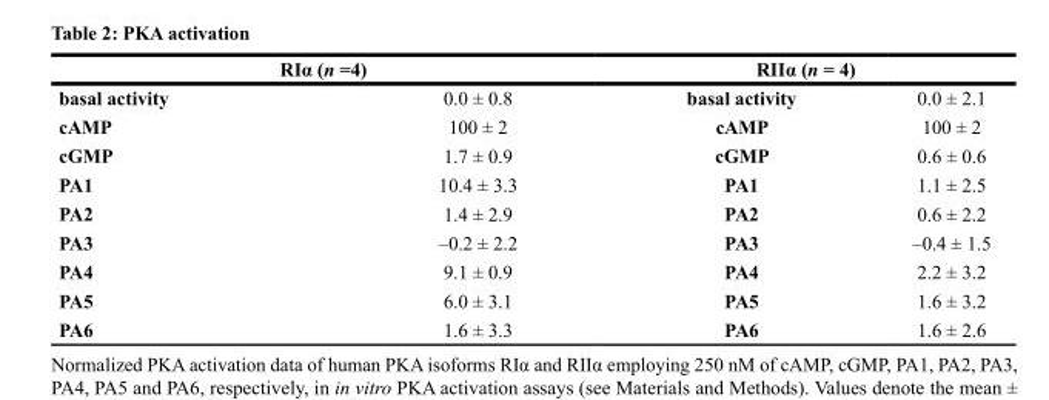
<table><thead><tr><td colspan="2">RIα (n =4)</td><td colspan="2">RIIα (n = 4)</td></tr><tr><td>basal activity</td><td>0.0 ± 0.8</td><td>basal activity</td><td>0.0 ± 2.1</td></tr></thead><tbody><tr><td>cAMP</td><td>100 ± 2</td><td>cAMP</td><td>100 ± 2</td></tr><tr><td>cGMP</td><td>1.7 ± 0.9</td><td>cGMP</td><td>0.6 ± 0.6</td></tr><tr><td>PA1</td><td>10.4 ± 3.3</td><td>PA1</td><td>1.1 ± 2.5</td></tr><tr><td>PA2</td><td>1.4 ± 2.9</td><td>PA2</td><td>0.6 ± 2.2</td></tr><tr><td>PA3</td><td>–0.2 ± 2.2</td><td>PA3</td><td>–0.4 ± 1.5</td></tr><tr><td>PA4</td><td>9.1 ± 0.9</td><td>PA4</td><td>2.2 ± 3.2</td></tr><tr><td>PA5</td><td>6.0 ± 3.1</td><td>PA5</td><td>1.6 ± 3.2</td></tr><tr><td>PA6</td><td>1.6 ± 3.3</td><td>PA6</td><td>1.6 ± 2.6</td></tr></tbody></table>